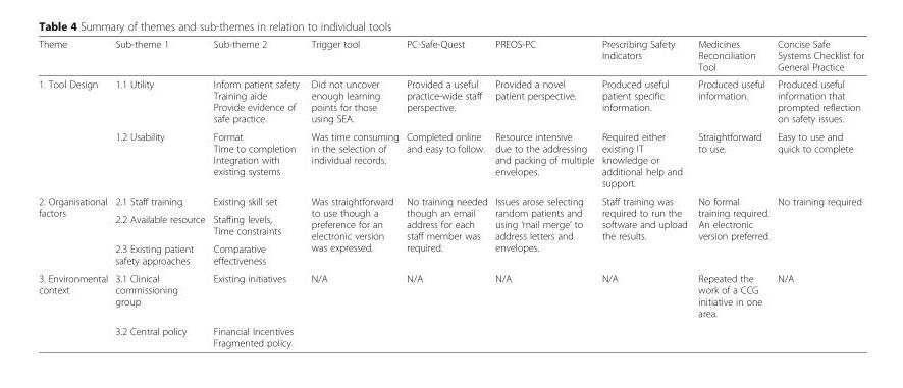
<table><thead><tr><td>Theme</td><td>Sub-theme 1</td><td>Sub-theme 2</td><td>Trigger tool</td><td>PC-Safe-Quest</td><td>PREOS-PC</td><td>Prescribing Safety Indicators</td><td>Medicines Reconciliation Tool</td><td>Concise Safe Systems Checklist for General Practice</td></tr></thead><tbody><tr><td rowspan="2">1. Tool Design</td><td>1.1 Utility</td><td>Inform patient safety Training aide Provide evidence of safe practice.</td><td>Did not uncover enough learning points for those using SEA.</td><td>Provided a useful practice-wide staff perspective.</td><td>Provided a novel patient perspective.</td><td>Produced useful patient specific information.</td><td>Produced useful information.</td><td>Produced useful information that prompted reflection on safety issues.</td></tr><tr><td>1.2 Usability</td><td>Format Time to completion Integration with existing systems</td><td>Was time consuming in the selection of individual records.</td><td>Completed online and easy to follow.</td><td>Resource intensive due to the addressing and packing of multiple envelopes.</td><td>Required either existing IT knowledge or additional help and support.</td><td>Straightforward to use.</td><td>Easy to use and quick to complete</td></tr><tr><td rowspan="3">2. Organisational factors</td><td>2.1 Staff training</td><td>Existing skill set</td><td rowspan="3">Was straightforward to use though a preference for an electronic version was expressed.</td><td rowspan="3">No training needed though an email address for each staff member was required.</td><td rowspan="3">Issues arose selecting random patients and using ‘mail merge’ to address letters and envelopes.</td><td rowspan="3">Staff training was required to run the software and upload the results.</td><td rowspan="3">No formal training required. An electronic version preferred.</td><td rowspan="3">No training required</td></tr><tr><td>2.2 Available resource</td><td>Staffing levels, Time constraints</td></tr><tr><td>2.3 Existing patient safety approaches</td><td>Comparative effectiveness</td></tr><tr><td rowspan="2">3. Environmental context</td><td>3.1 Clinical commissioning group</td><td>Existing initiatives</td><td>N/A</td><td>N/A</td><td>N/A</td><td>N/A</td><td>Repeated the work of a CCG initiative in one area.</td><td>N/A</td></tr><tr><td>3.2 Central policy</td><td>Financial Incentives Fragmented policy</td><td></td><td></td><td></td><td></td><td></td><td></td></tr></tbody></table>